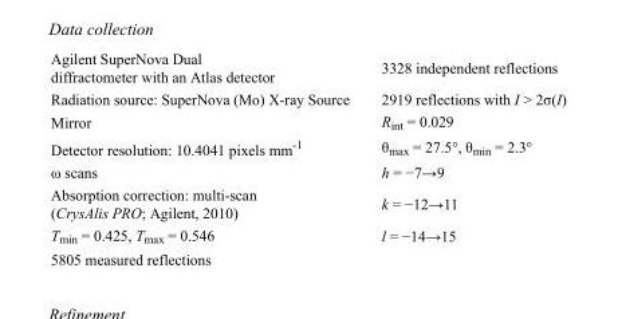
<table><tbody><tr><td>Agilent SuperNova Dual diffractometer with an Atlas detector</td><td>3328 independent reflections</td></tr><tr><td>Radiation source: SuperNova (Mo) X-ray Source</td><td>2919 reflections with I &gt; 2σ(I)</td></tr><tr><td>Mirror</td><td>R<sub>int</sub> = 0.029</td></tr><tr><td>Detector resolution: 10.4041 pixels mm<sup>-1</sup></td><td>θ<sub>max</sub> = 27.5°, θ<sub>min</sub> = 2.3°</td></tr><tr><td>ω scans</td><td>h = −7→9</td></tr><tr><td>Absorption correction: multi-scan (CrysAlis PRO; Agilent, 2010)</td><td>k = −12→11</td></tr><tr><td>T<sub>min</sub> = 0.425, T<sub>max</sub> = 0.546</td><td>l = −14→15</td></tr><tr><td>5805 measured reflections</td><td></td></tr></tbody></table>